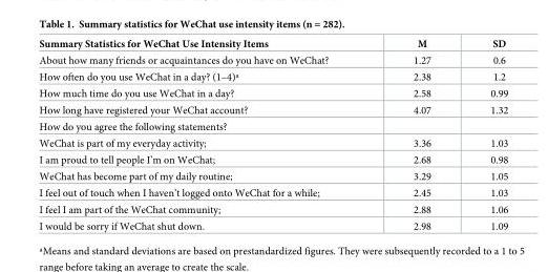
<table><thead><tr><td>Summary Statistics for WeChat Use Intensity Items</td><td>M</td><td>SD</td></tr></thead><tbody><tr><td>About how many friends or acquaintances do you have on WeChat?</td><td>1.27</td><td>0.6</td></tr><tr><td>How often do you use WeChat in a day? (1–4)ª</td><td>2.38</td><td>1.2</td></tr><tr><td>How much time do you use WeChat in a day?</td><td>2.58</td><td>0.99</td></tr><tr><td>How long have registered your WeChat account?</td><td>4.07</td><td>1.32</td></tr><tr><td colspan="3">How do you agree the following statements?</td></tr><tr><td>WeChat is part of my everyday activity;</td><td>3.36</td><td>1.03</td></tr><tr><td>I am proud to tell people I’m on WeChat;</td><td>2.68</td><td>0.98</td></tr><tr><td>WeChat has become part of my daily routine;</td><td>3.29</td><td>1.05</td></tr><tr><td>I feel out of touch when I haven’t logged onto WeChat for a while;</td><td>2.45</td><td>1.03</td></tr><tr><td>I feel I am part of the WeChat community;</td><td>2.88</td><td>1.06</td></tr><tr><td>I would be sorry if WeChat shut down.</td><td>2.98</td><td>1.09</td></tr></tbody></table>